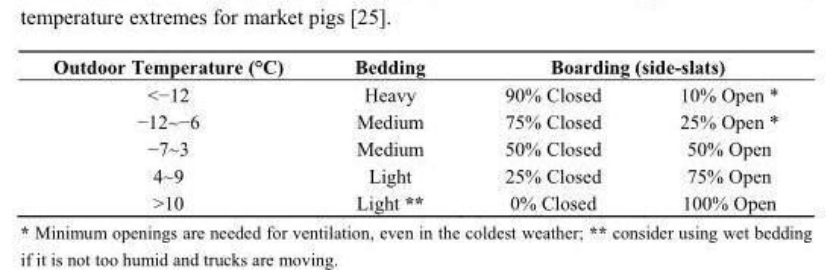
<table><thead><tr><td rowspan="2">Outdoor Temperature (°C) &lt;−12</td><td rowspan="2">Bedding Heavy</td><td colspan="2">Boarding (side-slats)</td></tr><tr><td>90% Closed</td><td>10% Open *</td></tr></thead><tbody><tr><td>−12~−6</td><td>Medium</td><td>75% Closed</td><td>25% Open *</td></tr><tr><td>−7~3</td><td>Medium</td><td>50% Closed</td><td>50% Open</td></tr><tr><td>4~9</td><td>Light</td><td>25% Closed</td><td>75% Open</td></tr><tr><td>&gt;10</td><td>Light **</td><td>0% Closed</td><td>100% Open</td></tr></tbody></table>